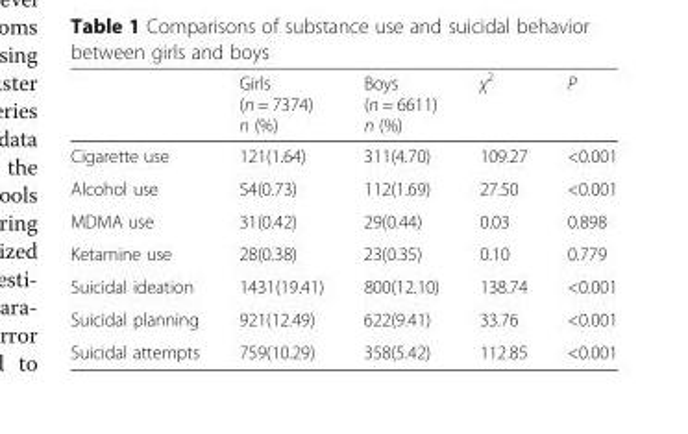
<table><thead><tr><td></td><td>Girls (n = 7374) n (%)</td><td>Boys (n = 6611) n (%)</td><td>χ<sup>2</sup></td><td>P</td></tr></thead><tbody><tr><td>Cigarette use</td><td>121(1.64)</td><td>311(4.70)</td><td>109.27</td><td>&lt;0.001</td></tr><tr><td>Alcohol use</td><td>54(0.73)</td><td>112(1.69)</td><td>27.50</td><td>&lt;0.001</td></tr><tr><td>MDMA use</td><td>31(0.42)</td><td>29(0.44)</td><td>0.03</td><td>0.898</td></tr><tr><td>Ketamine use</td><td>28(0.38)</td><td>23(0.35)</td><td>0.10</td><td>0.779</td></tr><tr><td>Suicidal ideation</td><td>1431(19.41)</td><td>800(12.10)</td><td>138.74</td><td>&lt;0.001</td></tr><tr><td>Suicidal planning</td><td>921(12.49)</td><td>622(9.41)</td><td>33.76</td><td>&lt;0.001</td></tr><tr><td>Suicidal attempts</td><td>759(10.29)</td><td>358(5.42)</td><td>112.85</td><td>&lt;0.001</td></tr></tbody></table>